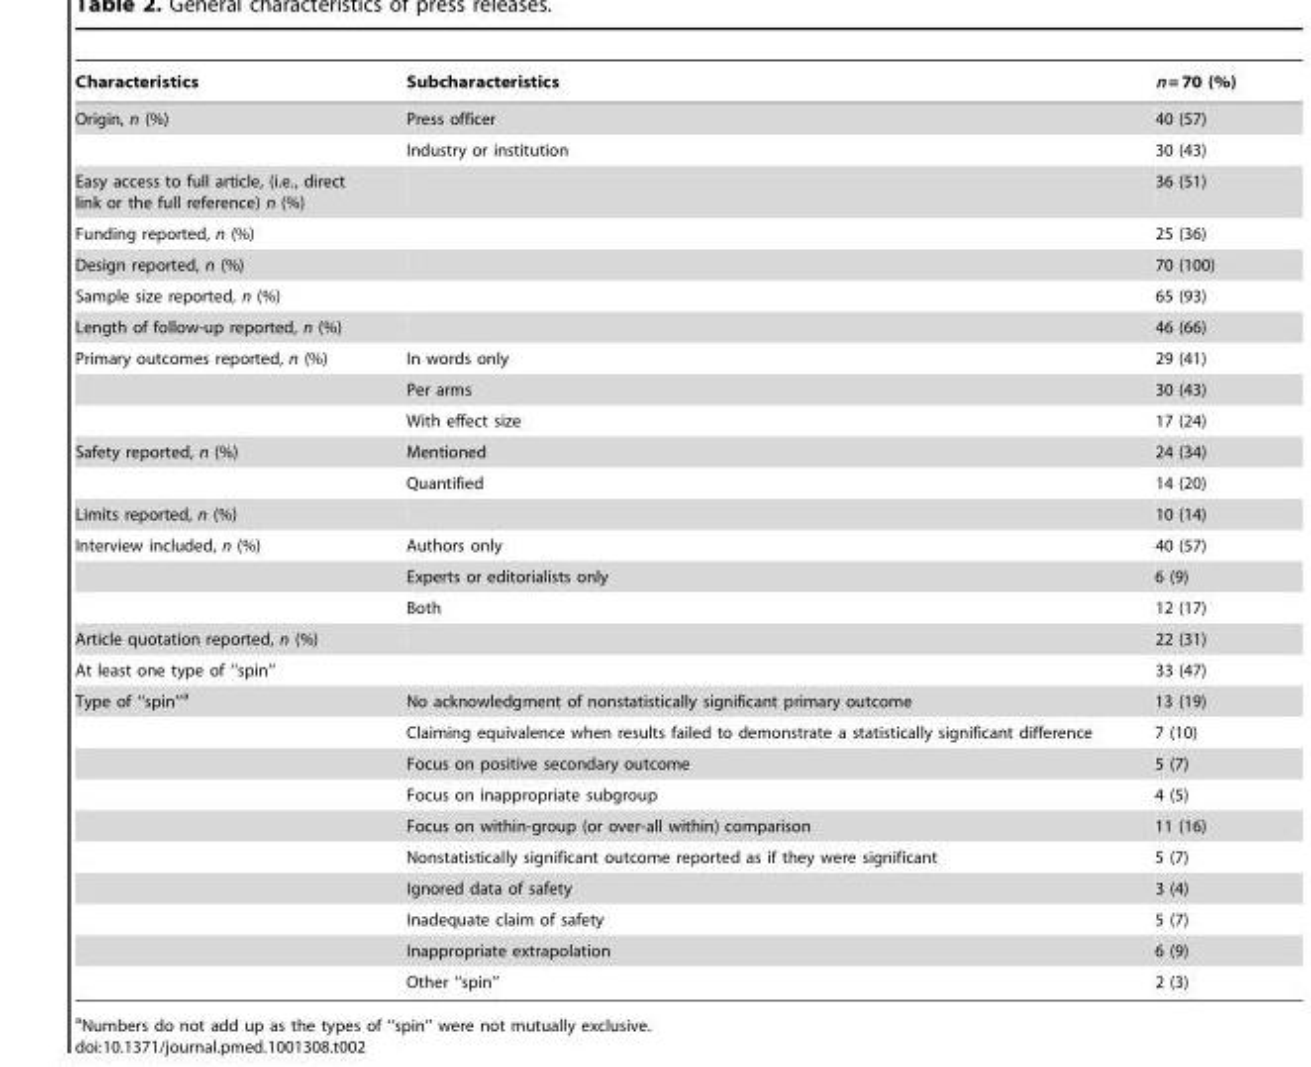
<table><thead><tr><td>Characteristics</td><td>Subcharacteristics</td><td>n = 70 (%)</td></tr></thead><tbody><tr><td rowspan="2">Origin, n (%)</td><td>Press officer</td><td>40 (57)</td></tr><tr><td>Industry or institution</td><td>30 (43)</td></tr><tr><td>Easy access to full article, (i.e., direct link or the full reference) n (%)</td><td></td><td>36 (51)</td></tr><tr><td>Funding reported, n (%)</td><td></td><td>25 (36)</td></tr><tr><td>Design reported, n (%)</td><td></td><td>70 (100)</td></tr><tr><td>Sample size reported, n (%)</td><td></td><td>65 (93)</td></tr><tr><td>Length of follow-up reported, n (%)</td><td></td><td>46 (66)</td></tr><tr><td rowspan="3">Primary outcomes reported, n (%)</td><td>In words only</td><td>29 (41)</td></tr><tr><td>Per arms</td><td>30 (43)</td></tr><tr><td>With effect size</td><td>17 (24)</td></tr><tr><td rowspan="2">Safety reported, n (%)</td><td>Mentioned</td><td>24 (34)</td></tr><tr><td>Quantified</td><td>14 (20)</td></tr><tr><td>Limits reported, n (%)</td><td></td><td>10 (14)</td></tr><tr><td rowspan="3">Interview included, n (%)</td><td>Authors only</td><td>40 (57)</td></tr><tr><td>Experts or editorialists only</td><td>6 (9)</td></tr><tr><td>Both</td><td>12 (17)</td></tr><tr><td>Article quotation reported, n (%)</td><td></td><td>22 (31)</td></tr><tr><td>At least one type of ‘‘spin’’</td><td></td><td>33 (47)</td></tr><tr><td rowspan="10">Type of ‘‘spin’’a</td><td>No acknowledgment of nonstatistically significant primary outcome</td><td>13 (19)</td></tr><tr><td>Claiming equivalence when results failed to demonstrate a statistically significant difference</td><td>7 (10)</td></tr><tr><td>Focus on positive secondary outcome</td><td>5 (7)</td></tr><tr><td>Focus on inappropriate subgroup</td><td>4 (5)</td></tr><tr><td>Focus on within-group (or over-all within) comparison</td><td>11 (16)</td></tr><tr><td>Nonstatistically significant outcome reported as if they were significant</td><td>5 (7)</td></tr><tr><td>Ignored data of safety</td><td>3 (4)</td></tr><tr><td>Inadequate claim of safety</td><td>5 (7)</td></tr><tr><td>Inappropriate extrapolation</td><td>6 (9)</td></tr><tr><td>Other ‘‘spin’’</td><td>2 (3)</td></tr></tbody></table>